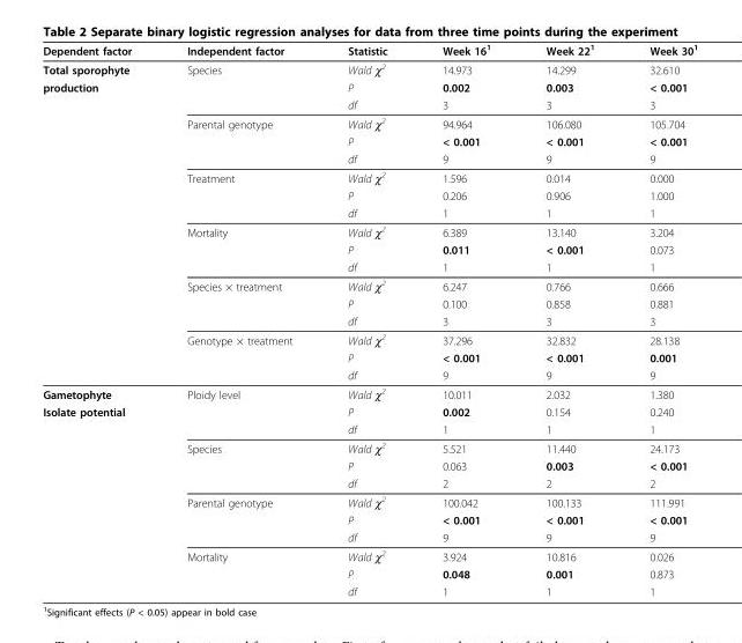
<table><thead><tr><td>Dependent factor</td><td>Independent factor</td><td>Statistic</td><td>Week 16<sup>1</sup></td><td>Week 22<sup>1</sup></td><td>Week 30<sup>1</sup></td></tr></thead><tbody><tr><td>Total sporophyte</td><td>Species</td><td>Wald χ<sup>2</sup></td><td>14.973</td><td>14.299</td><td>32.610</td></tr><tr><td rowspan="17">production</td><td></td><td>P</td><td>0.002</td><td>0.003</td><td>&lt; 0.001</td></tr><tr><td></td><td>df</td><td>3</td><td>3</td><td>3</td></tr><tr><td>Parental genotype</td><td>Wald χ<sup>2</sup></td><td>94.964</td><td>106.080</td><td>105.704</td></tr><tr><td></td><td>P</td><td>&lt; 0.001</td><td>&lt; 0.001</td><td>&lt; 0.001</td></tr><tr><td></td><td>df</td><td>9</td><td>9</td><td>9</td></tr><tr><td>Treatment</td><td>Wald χ<sup>2</sup></td><td>1.596</td><td>0.014</td><td>0.000</td></tr><tr><td></td><td>P</td><td>0.206</td><td>0.906</td><td>1.000</td></tr><tr><td></td><td>df</td><td>1</td><td>1</td><td>1</td></tr><tr><td>Mortality</td><td>Wald χ<sup>2</sup></td><td>6.389</td><td>13.140</td><td>3.204</td></tr><tr><td></td><td>P</td><td>0.011</td><td>&lt; 0.001</td><td>0.073</td></tr><tr><td></td><td>df</td><td>1</td><td>1</td><td>1</td></tr><tr><td>Species × treatment</td><td>Wald χ<sup>2</sup></td><td>6.247</td><td>0.766</td><td>0.666</td></tr><tr><td></td><td>P</td><td>0.100</td><td>0.858</td><td>0.881</td></tr><tr><td></td><td>df</td><td>3</td><td>3</td><td>3</td></tr><tr><td>Genotype × treatment</td><td>Wald χ<sup>2</sup></td><td>37.296</td><td>32.832</td><td>28.138</td></tr><tr><td></td><td>P</td><td>&lt; 0.001</td><td>&lt; 0.001</td><td>0.001</td></tr><tr><td></td><td>df</td><td>9</td><td>9</td><td>9</td></tr><tr><td>Gametophyte</td><td>Ploidy level</td><td>Wald χ<sup>2</sup></td><td>10.011</td><td>2.032</td><td>1.380</td></tr><tr><td rowspan="11">Isolate potential</td><td></td><td>P</td><td>0.002</td><td>0.154</td><td>0.240</td></tr><tr><td></td><td>df</td><td>1</td><td>1</td><td>1</td></tr><tr><td>Species</td><td>Wald χ<sup>2</sup></td><td>5.521</td><td>11.440</td><td>24.173</td></tr><tr><td></td><td>P</td><td>0.063</td><td>0.003</td><td>&lt; 0.001</td></tr><tr><td></td><td>df</td><td>2</td><td>2</td><td>2</td></tr><tr><td>Parental genotype</td><td>Wald χ<sup>2</sup></td><td>100.042</td><td>100.133</td><td>111.991</td></tr><tr><td></td><td>P</td><td>&lt; 0.001</td><td>&lt; 0.001</td><td>&lt; 0.001</td></tr><tr><td></td><td>df</td><td>9</td><td>9</td><td>9</td></tr><tr><td>Mortality</td><td>Wald χ<sup>2</sup></td><td>3.924</td><td>10.816</td><td>0.026</td></tr><tr><td></td><td>P</td><td>0.048</td><td>0.001</td><td>0.873</td></tr><tr><td></td><td>df</td><td>1</td><td>1</td><td>1</td></tr></tbody></table>